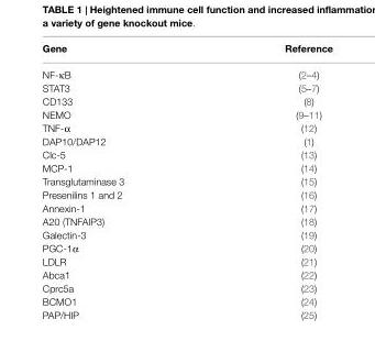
<table><thead><tr><td>Gene</td><td>Reference</td></tr></thead><tbody><tr><td>NF-κB</td><td>(2–4)</td></tr><tr><td>STAT3</td><td>(5–7)</td></tr><tr><td>CD133</td><td>(8)</td></tr><tr><td>NEMO</td><td>(9–11)</td></tr><tr><td>TNF-α</td><td>(12)</td></tr><tr><td>DAP10/DAP12</td><td>(1)</td></tr><tr><td>Clc-5</td><td>(13)</td></tr><tr><td>MCP-1</td><td>(14)</td></tr><tr><td>Transglutaminase 3</td><td>(15)</td></tr><tr><td>Presenilins 1 and 2</td><td>(16)</td></tr><tr><td>Annexin-1</td><td>(17)</td></tr><tr><td>A20 (TNFAIP3)</td><td>(18)</td></tr><tr><td>Galectin-3</td><td>(19)</td></tr><tr><td>PGC-1α</td><td>(20)</td></tr><tr><td>LDLR</td><td>(21)</td></tr><tr><td>Abca1</td><td>(22)</td></tr><tr><td>Cprc5a</td><td>(23)</td></tr><tr><td>BCMO1</td><td>(24)</td></tr><tr><td>PAP/HIP</td><td>(25)</td></tr></tbody></table>